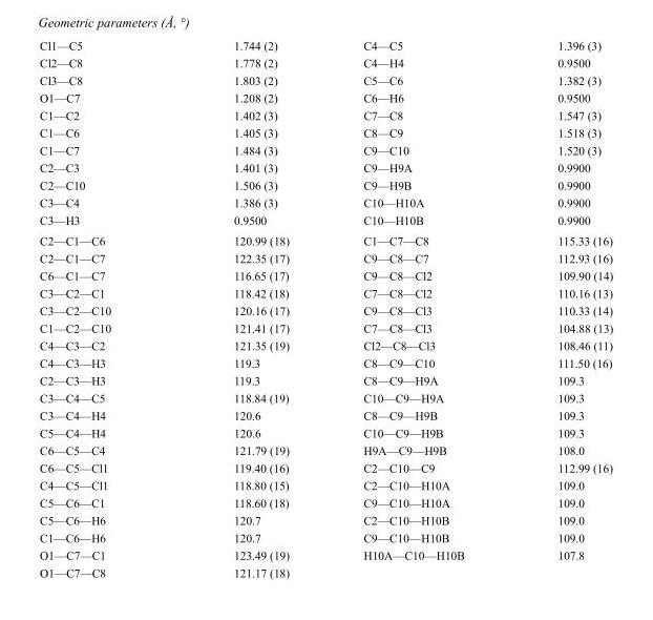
<table><tbody><tr><td>Cl1—C5</td><td>1.744 (2)</td><td>C4—C5</td><td>1.396 (3)</td></tr><tr><td>Cl2—C8</td><td>1.778 (2)</td><td>C4—H4</td><td>0.9500</td></tr><tr><td>Cl3—C8</td><td>1.803 (2)</td><td>C5—C6</td><td>1.382 (3)</td></tr><tr><td>O1—C7</td><td>1.208 (2)</td><td>C6—H6</td><td>0.9500</td></tr><tr><td>C1—C2</td><td>1.402 (3)</td><td>C7—C8</td><td>1.547 (3)</td></tr><tr><td>C1—C6</td><td>1.405 (3)</td><td>C8—C9</td><td>1.518 (3)</td></tr><tr><td>C1—C7</td><td>1.484 (3)</td><td>C9—C10</td><td>1.520 (3)</td></tr><tr><td>C2—C3</td><td>1.401 (3)</td><td>C9—H9A</td><td>0.9900</td></tr><tr><td>C2—C10</td><td>1.506 (3)</td><td>C9—H9B</td><td>0.9900</td></tr><tr><td>C3—C4</td><td>1.386 (3)</td><td>C10—H10A</td><td>0.9900</td></tr><tr><td>C3—H3</td><td>0.9500</td><td>C10—H10B</td><td>0.9900</td></tr><tr><td>C2—C1—C6</td><td>120.99 (18)</td><td>C1—C7—C8</td><td>115.33 (16)</td></tr><tr><td>C2—C1—C7</td><td>122.35 (17)</td><td>C9—C8—C7</td><td>112.93 (16)</td></tr><tr><td>C6—C1—C7</td><td>116.65 (17)</td><td>C9—C8—Cl2</td><td>109.90 (14)</td></tr><tr><td>C3—C2—C1</td><td>118.42 (18)</td><td>C7—C8—Cl2</td><td>110.16 (13)</td></tr><tr><td>C3—C2—C10</td><td>120.16 (17)</td><td>C9—C8—Cl3</td><td>110.33 (14)</td></tr><tr><td>C1—C2—C10</td><td>121.41 (17)</td><td>C7—C8—Cl3</td><td>104.88 (13)</td></tr><tr><td>C4—C3—C2</td><td>121.35 (19)</td><td>Cl2—C8—Cl3</td><td>108.46 (11)</td></tr><tr><td>C4—C3—H3</td><td>119.3</td><td>C8—C9—C10</td><td>111.50 (16)</td></tr><tr><td>C2—C3—H3</td><td>119.3</td><td>C8—C9—H9A</td><td>109.3</td></tr><tr><td>C3—C4—C5</td><td>118.84 (19)</td><td>C10—C9—H9A</td><td>109.3</td></tr><tr><td>C3—C4—H4</td><td>120.6</td><td>C8—C9—H9B</td><td>109.3</td></tr><tr><td>C5—C4—H4</td><td>120.6</td><td>C10—C9—H9B</td><td>109.3</td></tr><tr><td>C6—C5—C4</td><td>121.79 (19)</td><td>H9A—C9—H9B</td><td>108.0</td></tr><tr><td>C6—C5—Cl1</td><td>119.40 (16)</td><td>C2—C10—C9</td><td>112.99 (16)</td></tr><tr><td>C4—C5—Cl1</td><td>118.80 (15)</td><td>C2—C10—H10A</td><td>109.0</td></tr><tr><td>C5—C6—C1</td><td>118.60 (18)</td><td>C9—C10—H10A</td><td>109.0</td></tr><tr><td>C5—C6—H6</td><td>120.7</td><td>C2—C10—H10B</td><td>109.0</td></tr><tr><td>C1—C6—H6</td><td>120.7</td><td>C9—C10—H10B</td><td>109.0</td></tr><tr><td>O1—C7—C1</td><td>123.49 (19)</td><td>H10A—C10—H10B</td><td>107.8</td></tr><tr><td>O1—C7—C8</td><td>121.17 (18)</td><td></td><td></td></tr></tbody></table>